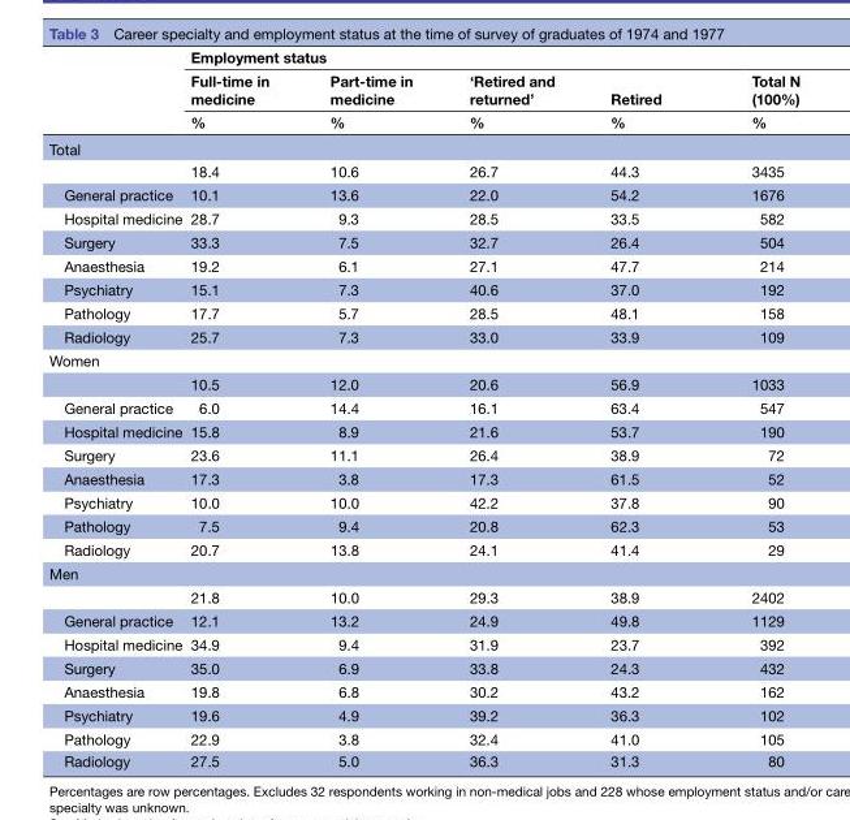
<table><thead><tr><td rowspan="3"></td><td colspan="5">Employment status</td></tr><tr><td rowspan="2">Full-time in medicine %</td><td rowspan="2">Part-time in medicine %</td><td rowspan="2">‘Retired and returned’ %</td><td rowspan="2">Retired %</td><td rowspan="2">Total N (100%) %</td></tr><tr></tr></thead><tbody><tr><td colspan="6">Total</td></tr><tr><td></td><td>18.4</td><td>10.6</td><td>26.7</td><td>44.3</td><td>3435</td></tr><tr><td>General practice</td><td>10.1</td><td>13.6</td><td>22.0</td><td>54.2</td><td>1676</td></tr><tr><td>Hospital medicine</td><td>28.7</td><td>9.3</td><td>28.5</td><td>33.5</td><td>582</td></tr><tr><td>Surgery</td><td>33.3</td><td>7.5</td><td>32.7</td><td>26.4</td><td>504</td></tr><tr><td>Anaesthesia</td><td>19.2</td><td>6.1</td><td>27.1</td><td>47.7</td><td>214</td></tr><tr><td>Psychiatry</td><td>15.1</td><td>7.3</td><td>40.6</td><td>37.0</td><td>192</td></tr><tr><td>Pathology</td><td>17.7</td><td>5.7</td><td>28.5</td><td>48.1</td><td>158</td></tr><tr><td>Radiology</td><td>25.7</td><td>7.3</td><td>33.0</td><td>33.9</td><td>109</td></tr><tr><td colspan="6">Women</td></tr><tr><td></td><td>10.5</td><td>12.0</td><td>20.6</td><td>56.9</td><td>1033</td></tr><tr><td>General practice</td><td>6.0</td><td>14.4</td><td>16.1</td><td>63.4</td><td>547</td></tr><tr><td>Hospital medicine</td><td>15.8</td><td>8.9</td><td>21.6</td><td>53.7</td><td>190</td></tr><tr><td>Surgery</td><td>23.6</td><td>11.1</td><td>26.4</td><td>38.9</td><td>72</td></tr><tr><td>Anaesthesia</td><td>17.3</td><td>3.8</td><td>17.3</td><td>61.5</td><td>52</td></tr><tr><td>Psychiatry</td><td>10.0</td><td>10.0</td><td>42.2</td><td>37.8</td><td>90</td></tr><tr><td>Pathology</td><td>7.5</td><td>9.4</td><td>20.8</td><td>62.3</td><td>53</td></tr><tr><td>Radiology</td><td>20.7</td><td>13.8</td><td>24.1</td><td>41.4</td><td>29</td></tr><tr><td colspan="6">Men</td></tr><tr><td></td><td>21.8</td><td>10.0</td><td>29.3</td><td>38.9</td><td>2402</td></tr><tr><td>General practice</td><td>12.1</td><td>13.2</td><td>24.9</td><td>49.8</td><td>1129</td></tr><tr><td>Hospital medicine</td><td>34.9</td><td>9.4</td><td>31.9</td><td>23.7</td><td>392</td></tr><tr><td>Surgery</td><td>35.0</td><td>6.9</td><td>33.8</td><td>24.3</td><td>432</td></tr><tr><td>Anaesthesia</td><td>19.8</td><td>6.8</td><td>30.2</td><td>43.2</td><td>162</td></tr><tr><td>Psychiatry</td><td>19.6</td><td>4.9</td><td>39.2</td><td>36.3</td><td>102</td></tr><tr><td>Pathology</td><td>22.9</td><td>3.8</td><td>32.4</td><td>41.0</td><td>105</td></tr><tr><td>Radiology</td><td>27.5</td><td>5.0</td><td>36.3</td><td>31.3</td><td>80</td></tr></tbody></table>